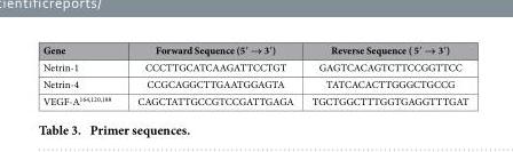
<table><thead><tr><td>Gene</td><td>Forward Sequence (5′ → 3′)</td><td>Reverse Sequence ( 5′ → 3′)</td></tr></thead><tbody><tr><td>Netrin-1</td><td>CCCTTGCATCAAGATTCCTGT</td><td>GAGTCACAGTCTTCCGGTTCC</td></tr><tr><td>Netrin-4</td><td>CCGCAGGCTTGAATGGAGTA</td><td>TATCACACTTGGGCTGCCG</td></tr><tr><td>VEGF-A<sup>164,120,188</sup></td><td>CAGCTATTGCCGTCCGATTGAGA</td><td>TGCTGGCTTTGGTGAGGTTTGAT</td></tr></tbody></table>